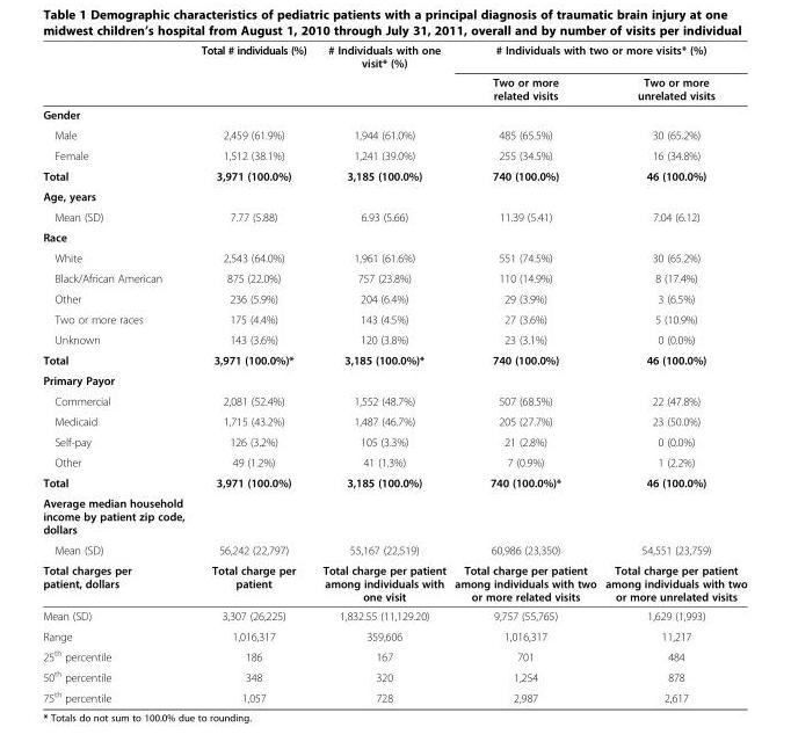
<table><thead><tr><td rowspan="2"></td><td rowspan="2">Total # individuals (%)</td><td rowspan="2"># Individuals with one visit* (%)</td><td colspan="2"># Individuals with two or more visits* (%)</td></tr><tr><td>Two or more related visits</td><td>Two or more unrelated visits</td></tr></thead><tbody><tr><td colspan="5">Gender</td></tr><tr><td>Male</td><td>2,459 (61.9%)</td><td>1,944 (61.0%)</td><td>485 (65.5%)</td><td>30 (65.2%)</td></tr><tr><td>Female</td><td>1,512 (38.1%)</td><td>1,241 (39.0%)</td><td>255 (34.5%)</td><td>16 (34.8%)</td></tr><tr><td>Total</td><td>3,971 (100.0%)</td><td>3,185 (100.0%)</td><td>740 (100.0%)</td><td>46 (100.0%)</td></tr><tr><td colspan="5">Age, years</td></tr><tr><td>Mean (SD)</td><td>7.77 (5.88)</td><td>6.93 (5.66)</td><td>11.39 (5.41)</td><td>7.04 (6.12)</td></tr><tr><td colspan="5">Race</td></tr><tr><td>White</td><td>2,543 (64.0%)</td><td>1,961 (61.6%)</td><td>551 (74.5%)</td><td>30 (65.2%)</td></tr><tr><td>Black/African American</td><td>875 (22.0%)</td><td>757 (23.8%)</td><td>110 (14.9%)</td><td>8 (17.4%)</td></tr><tr><td>Other</td><td>236 (5.9%)</td><td>204 (6.4%)</td><td>29 (3.9%)</td><td>3 (6.5%)</td></tr><tr><td>Two or more races</td><td>175 (4.4%)</td><td>143 (4.5%)</td><td>27 (3.6%)</td><td>5 (10.9%)</td></tr><tr><td>Unknown</td><td>143 (3.6%)</td><td>120 (3.8%)</td><td>23 (3.1%)</td><td>0 (0.0%)</td></tr><tr><td>Total</td><td>3,971 (100.0%)*</td><td>3,185 (100.0%)*</td><td>740 (100.0%)</td><td>46 (100.0%)</td></tr><tr><td colspan="5">Primary Payor</td></tr><tr><td>Commercial</td><td>2,081 (52.4%)</td><td>1,552 (48.7%)</td><td>507 (68.5%)</td><td>22 (47.8%)</td></tr><tr><td>Medicaid</td><td>1,715 (43.2%)</td><td>1,487 (46.7%)</td><td>205 (27.7%)</td><td>23 (50.0%)</td></tr><tr><td>Self-pay</td><td>126 (3.2%)</td><td>105 (3.3%)</td><td>21 (2.8%)</td><td>0 (0.0%)</td></tr><tr><td>Other</td><td>49 (1.2%)</td><td>41 (1.3%)</td><td>7 (0.9%)</td><td>1 (2.2%)</td></tr><tr><td>Total</td><td>3,971 (100.0%)</td><td>3,185 (100.0%)</td><td>740 (100.0%)*</td><td>46 (100.0%)</td></tr><tr><td colspan="5">Average median household income by patient zip code, dollars</td></tr><tr><td>Mean (SD)</td><td>56,242 (22,797)</td><td>55,167 (22,519)</td><td>60,986 (23,350)</td><td>54,551 (23,759)</td></tr><tr><td>Total charges per patient, dollars</td><td>Total charge per patient</td><td>Total charge per patient among individuals with one visit</td><td>Total charge per patient among individuals with two or more related visits</td><td>Total charge per patient among individuals with two or more unrelated visits</td></tr><tr><td>Mean (SD)</td><td>3,307 (26,225)</td><td>1,832.55 (11,129.20)</td><td>9,757 (55,765)</td><td>1,629 (1,993)</td></tr><tr><td>Range</td><td>1,016,317</td><td>359,606</td><td>1,016,317</td><td>11,217</td></tr><tr><td>25<sup>th</sup> percentile</td><td>186</td><td>167</td><td>701</td><td>484</td></tr><tr><td>50<sup>th</sup> percentile</td><td>348</td><td>320</td><td>1,254</td><td>878</td></tr><tr><td>75<sup>th</sup> percentile</td><td>1,057</td><td>728</td><td>2,987</td><td>2,617</td></tr></tbody></table>